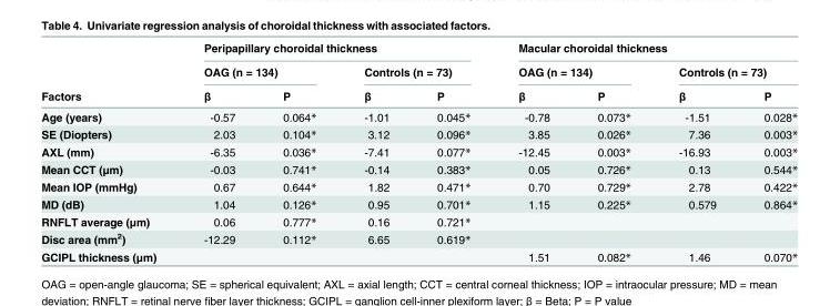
<table><thead><tr><td rowspan="3">Factors</td><td colspan="4">Peripapillary choroidal thickness</td><td colspan="4">Macular choroidal thickness</td></tr><tr><td colspan="2">OAG (n = 134)</td><td colspan="2">Controls (n = 73)</td><td colspan="2">OAG (n = 134)</td><td colspan="2">Controls (n = 73)</td></tr><tr><td>β</td><td>P</td><td>β</td><td>P</td><td>β</td><td>P</td><td>β</td><td>P</td></tr></thead><tbody><tr><td>Age (years)</td><td>-0.57</td><td>0.064*</td><td>-1.01</td><td>0.045*</td><td>-0.78</td><td>0.073*</td><td>-1.51</td><td>0.028*</td></tr><tr><td>SE (Diopters)</td><td>2.03</td><td>0.104*</td><td>3.12</td><td>0.096*</td><td>3.85</td><td>0.026*</td><td>7.36</td><td>0.003*</td></tr><tr><td>AXL (mm)</td><td>-6.35</td><td>0.036*</td><td>-7.41</td><td>0.077*</td><td>-12.45</td><td>0.003*</td><td>-16.93</td><td>0.003*</td></tr><tr><td>Mean CCT (μm)</td><td>-0.03</td><td>0.741*</td><td>-0.14</td><td>0.383*</td><td>0.05</td><td>0.726*</td><td>0.13</td><td>0.544*</td></tr><tr><td>Mean IOP (mmHg)</td><td>0.67</td><td>0.644*</td><td>1.82</td><td>0.471*</td><td>0.70</td><td>0.729*</td><td>2.78</td><td>0.422*</td></tr><tr><td>MD (dB)</td><td>1.04</td><td>0.126*</td><td>0.95</td><td>0.701*</td><td>1.15</td><td>0.225*</td><td>0.579</td><td>0.864*</td></tr><tr><td>RNFLT average (μm)</td><td>0.06</td><td>0.777*</td><td>0.16</td><td>0.721*</td><td></td><td></td><td></td><td></td></tr><tr><td>Disc area (mm<sup>2</sup>)</td><td>-12.29</td><td>0.112*</td><td>6.65</td><td>0.619*</td><td></td><td></td><td></td><td></td></tr><tr><td>GCIPL thickness (μm)</td><td></td><td></td><td></td><td></td><td>1.51</td><td>0.082*</td><td>1.46</td><td>0.070*</td></tr></tbody></table>